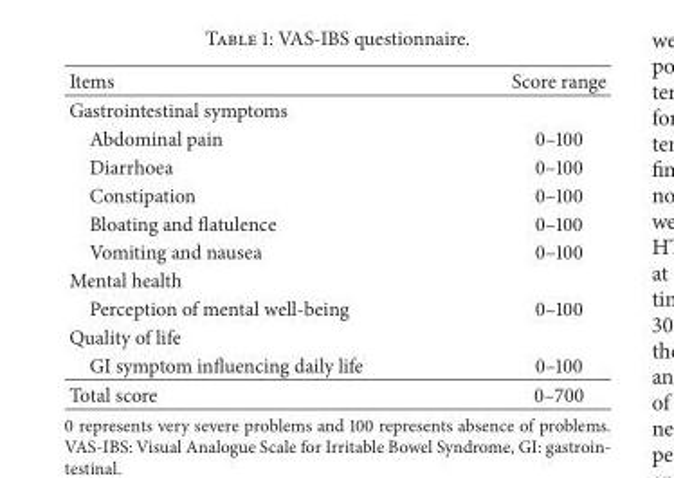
<table><thead><tr><td>Items</td><td>Score range</td></tr></thead><tbody><tr><td colspan="2">Gastrointestinal symptoms</td></tr><tr><td>Abdominal pain</td><td>0–100</td></tr><tr><td>Diarrhoea</td><td>0–100</td></tr><tr><td>Constipation</td><td>0–100</td></tr><tr><td>Bloating and flatulence</td><td>0–100</td></tr><tr><td>Vomiting and nausea</td><td>0–100</td></tr><tr><td colspan="2">Mental health</td></tr><tr><td>Perception of mental well-being</td><td>0–100</td></tr><tr><td colspan="2">Quality of life</td></tr><tr><td>GI symptom influencing daily life</td><td>0–100</td></tr><tr><td>Total score</td><td>0–700</td></tr></tbody></table>